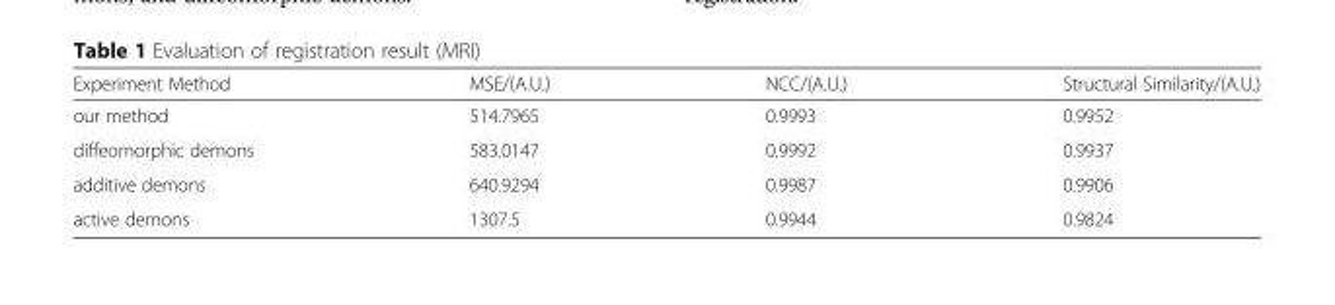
<table><thead><tr><td>Experiment Method</td><td>MSE/(A.U.)</td><td>NCC/(A.U.)</td><td>Structural Similarity/(A.U.)</td></tr></thead><tbody><tr><td>our method</td><td>514.7965</td><td>0.9993</td><td>0.9952</td></tr><tr><td>diffeomorphic demons</td><td>583.0147</td><td>0.9992</td><td>0.9937</td></tr><tr><td>additive demons</td><td>640.9294</td><td>0.9987</td><td>0.9906</td></tr><tr><td>active demons</td><td>1307.5</td><td>0.9944</td><td>0.9824</td></tr></tbody></table>